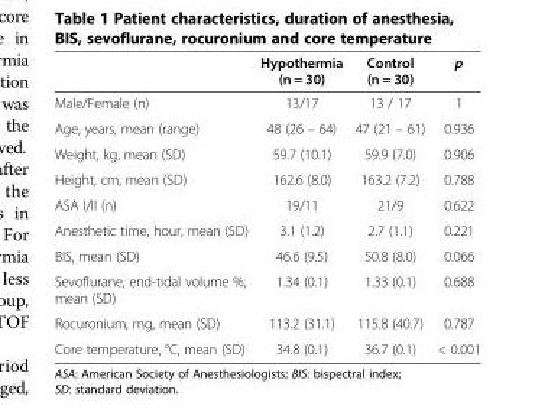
<table><thead><tr><td></td><td>Hypothermia (n = 30)</td><td>Control (n = 30)</td><td>p</td></tr></thead><tbody><tr><td>Male/Female (n)</td><td>13/17</td><td>13 / 17</td><td>1</td></tr><tr><td>Age, years, mean (range)</td><td>48 (26 – 64)</td><td>47 (21 – 61)</td><td>0.936</td></tr><tr><td>Weight, kg, mean (SD)</td><td>59.7 (10.1)</td><td>59.9 (7.0)</td><td>0.906</td></tr><tr><td>Height, cm, mean (SD)</td><td>162.6 (8.0)</td><td>163.2 (7.2)</td><td>0.788</td></tr><tr><td>ASA I/II (n)</td><td>19/11</td><td>21/9</td><td>0.622</td></tr><tr><td>Anesthetic time, hour, mean (SD)</td><td>3.1 (1.2)</td><td>2.7 (1.1)</td><td>0.221</td></tr><tr><td>BIS, mean (SD)</td><td>46.6 (9.5)</td><td>50.8 (8.0)</td><td>0.066</td></tr><tr><td>Sevoflurane, end-tidal volume %, mean (SD)</td><td>1.34 (0.1)</td><td>1.33 (0.1)</td><td>0.688</td></tr><tr><td>Rocuronium, mg, mean (SD)</td><td>113.2 (31.1)</td><td>115.8 (40.7)</td><td>0.787</td></tr><tr><td>Core temperature, °C, mean (SD)</td><td>34.8 (0.1)</td><td>36.7 (0.1)</td><td>&lt; 0.001</td></tr></tbody></table>